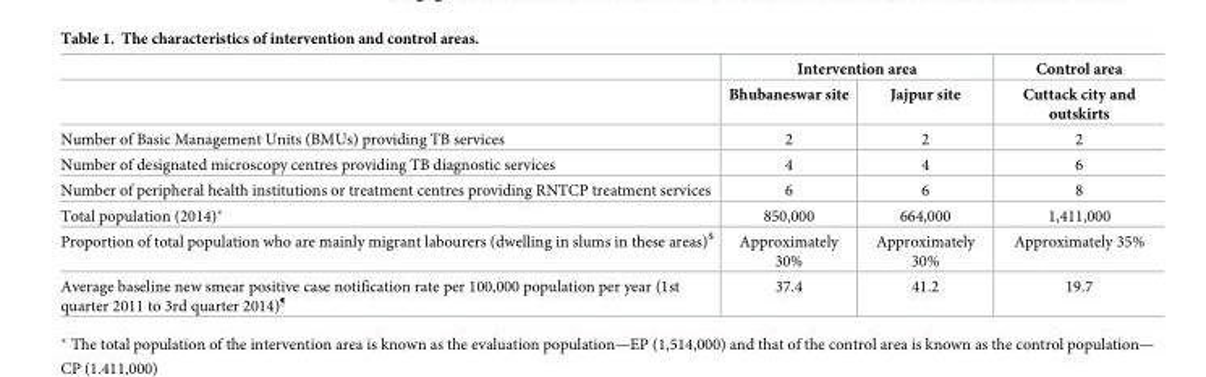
<table><thead><tr><td rowspan="2"></td><td colspan="2">Intervention area</td><td rowspan="2">Control area Cuttack city and outskirts</td></tr><tr><td>Bhubaneswar site</td><td>Jajpur site</td></tr></thead><tbody><tr><td>Number of Basic Management Units (BMUs) providing TB services</td><td>2</td><td>2</td><td>2</td></tr><tr><td>Number of designated microscopy centres providing TB diagnostic services</td><td>4</td><td>4</td><td>6</td></tr><tr><td>Number of peripheral health institutions or treatment centres providing RNTCP treatment services</td><td>6</td><td>6</td><td>8</td></tr><tr><td>Total population (2014)*</td><td>850,000</td><td>664,000</td><td>1,411,000</td></tr><tr><td>Proportion of total population who are mainly migrant labourers (dwelling in slums in these areas)<sup>$</sup></td><td>Approximately 30%</td><td>Approximately 30%</td><td>Approximately 35%</td></tr><tr><td>Average baseline new smear positive case notification rate per 100,000 population per year (1st quarter 2011 to 3rd quarter 2014)<sup>¶</sup></td><td>37.4</td><td>41.2</td><td>19.7</td></tr></tbody></table>